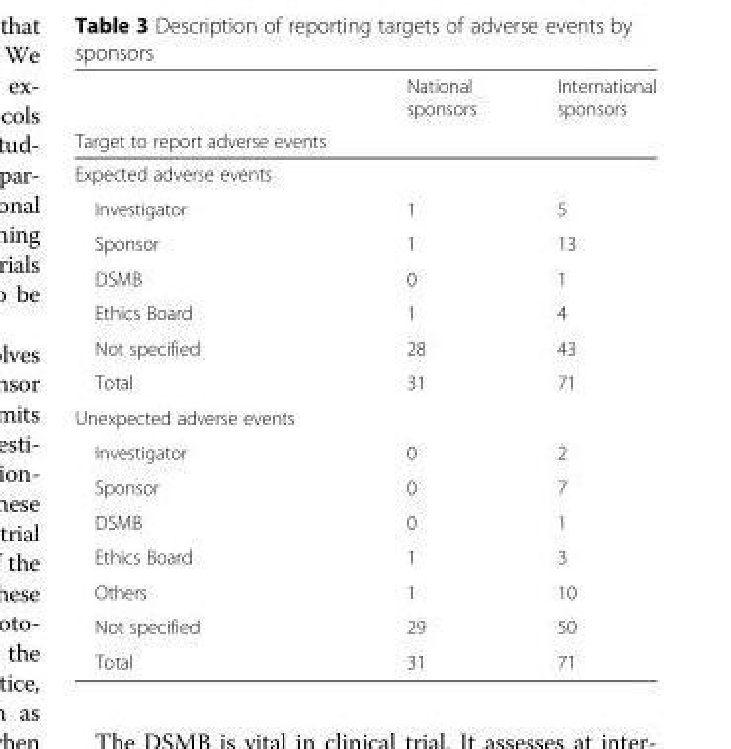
<table><thead><tr><td rowspan="2">Target to report adverse events</td><td rowspan="2">National sponsors</td><td rowspan="2">International sponsors</td></tr><tr></tr></thead><tbody><tr><td colspan="3">Expected adverse events</td></tr><tr><td>Investigator</td><td>1</td><td>5</td></tr><tr><td>Sponsor</td><td>1</td><td>13</td></tr><tr><td>DSMB</td><td>0</td><td>1</td></tr><tr><td>Ethics Board</td><td>1</td><td>4</td></tr><tr><td>Not specified</td><td>28</td><td>43</td></tr><tr><td>Total</td><td>31</td><td>71</td></tr><tr><td colspan="3">Unexpected adverse events</td></tr><tr><td>Investigator</td><td>0</td><td>2</td></tr><tr><td>Sponsor</td><td>0</td><td>7</td></tr><tr><td>DSMB</td><td>0</td><td>1</td></tr><tr><td>Ethics Board</td><td>1</td><td>3</td></tr><tr><td>Others</td><td>1</td><td>10</td></tr><tr><td>Not specified</td><td>29</td><td>50</td></tr><tr><td>Total</td><td>31</td><td>71</td></tr></tbody></table>